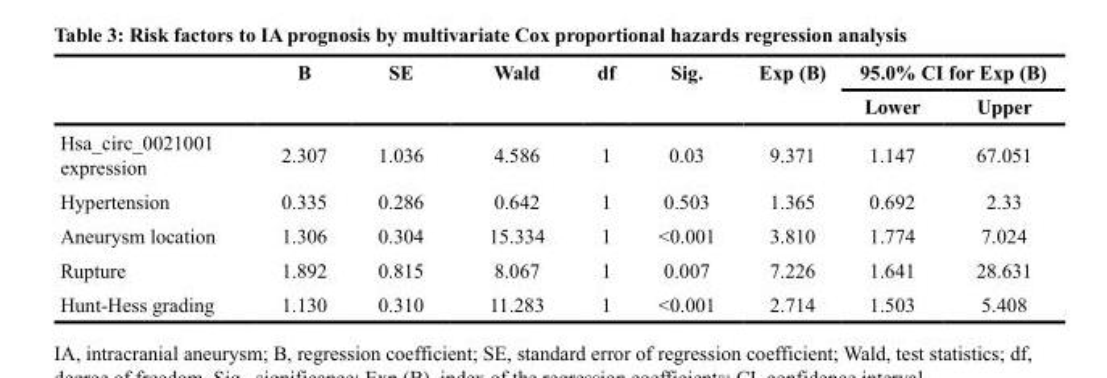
<table><thead><tr><td rowspan="2"></td><td rowspan="2">B</td><td rowspan="2">SE</td><td rowspan="2">Wald</td><td rowspan="2">df</td><td rowspan="2">Sig.</td><td rowspan="2">Exp (B)</td><td colspan="2">95.0% CI for Exp (B)</td></tr><tr><td>Lower</td><td>Upper</td></tr></thead><tbody><tr><td>Hsa_circ_0021001 expression</td><td>2.307</td><td>1.036</td><td>4.586</td><td>1</td><td>0.03</td><td>9.371</td><td>1.147</td><td>67.051</td></tr><tr><td>Hypertension</td><td>0.335</td><td>0.286</td><td>0.642</td><td>1</td><td>0.503</td><td>1.365</td><td>0.692</td><td>2.33</td></tr><tr><td>Aneurysm location</td><td>1.306</td><td>0.304</td><td>15.334</td><td>1</td><td>&lt;0.001</td><td>3.810</td><td>1.774</td><td>7.024</td></tr><tr><td>Rupture</td><td>1.892</td><td>0.815</td><td>8.067</td><td>1</td><td>0.007</td><td>7.226</td><td>1.641</td><td>28.631</td></tr><tr><td>Hunt-Hess grading</td><td>1.130</td><td>0.310</td><td>11.283</td><td>1</td><td>&lt;0.001</td><td>2.714</td><td>1.503</td><td>5.408</td></tr></tbody></table>